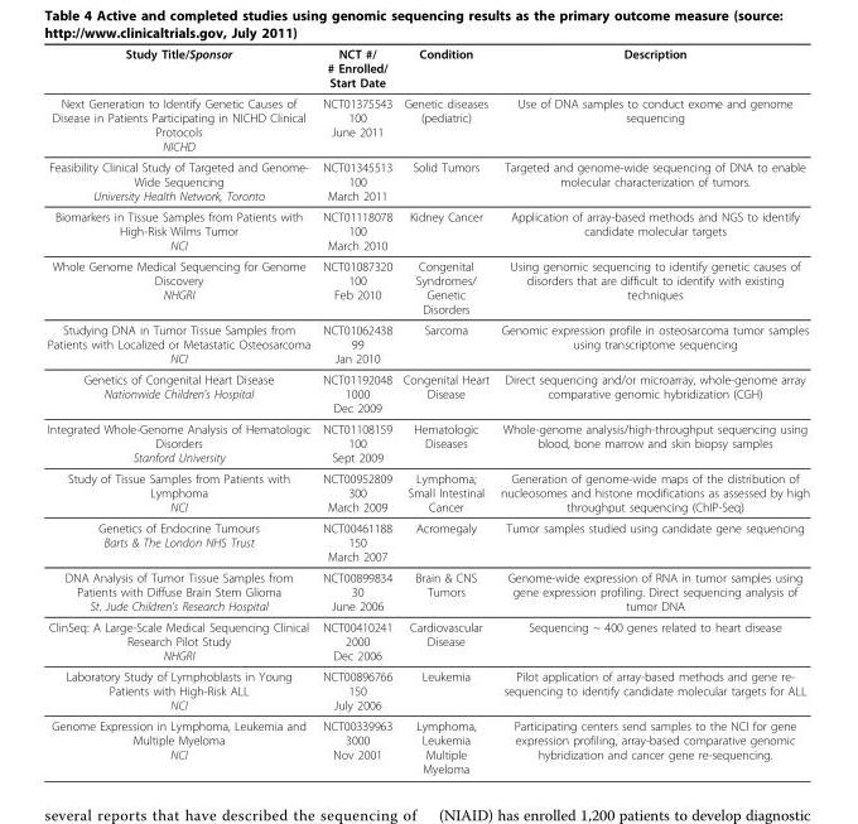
<table><thead><tr><td>Study Title/Sponsor</td><td>NCT #/ # Enrolled/ Start Date</td><td>Condition</td><td>Description</td></tr></thead><tbody><tr><td>Next Generation to Identify Genetic Causes of Disease in Patients Participating in NICHD Clinical Protocols NICHD</td><td>NCT01375543 100 June 2011</td><td>Genetic diseases (pediatric)</td><td>Use of DNA samples to conduct exome and genome sequencing</td></tr><tr><td>Feasibility Clinical Study of Targeted and Genome- Wide Sequencing University Health Network, Toronto</td><td>NCT01345513 100 March 2011</td><td>Solid Tumors</td><td>Targeted and genome-wide sequencing of DNA to enable molecular characterization of tumors.</td></tr><tr><td>Biomarkers in Tissue Samples from Patients with High-Risk Wilms Tumor NCI</td><td>NCT01118078 100 March 2010</td><td>Kidney Cancer</td><td>Application of array-based methods and NGS to identify candidate molecular targets</td></tr><tr><td>Whole Genome Medical Sequencing for Genome Discovery NHGRI</td><td>NCT01087320 100 Feb 2010</td><td>Congenital Syndromes/ Genetic Disorders</td><td>Using genomic sequencing to identify genetic causes of disorders that are difficult to identify with existing techniques</td></tr><tr><td>Studying DNA in Tumor Tissue Samples from Patients with Localized or Metastatic Osteosarcoma NCI</td><td>NCT01062438 99 Jan 2010</td><td>Sarcoma</td><td>Genomic expression profile in osteosarcoma tumor samples using transcriptome sequencing</td></tr><tr><td>Genetics of Congenital Heart Disease Nationwide Children’s Hospital</td><td>NCT01192048 1000 Dec 2009</td><td>Congenital Heart Disease</td><td>Direct sequencing and/or microarray, whole-genome array comparative genomic hybridization (CGH)</td></tr><tr><td>Integrated Whole-Genome Analysis of Hematologic Disorders Stanford University</td><td>NCT01108159 100 Sept 2009</td><td>Hematologic Diseases</td><td>Whole-genome analysis/high-throughput sequencing using blood, bone marrow and skin biopsy samples</td></tr><tr><td>Study of Tissue Samples from Patients with Lymphoma NCI</td><td>NCT00952809 300 March 2009</td><td>Lymphoma; Small Intestinal Cancer</td><td>Generation of genome-wide maps of the distribution of nucleosomes and histone modifications as assessed by high throughput sequencing (ChIP-Seq)</td></tr><tr><td>Genetics of Endocrine Tumours Barts &amp; The London NHS Trust</td><td>NCT00461188 150 March 2007</td><td>Acromegaly</td><td>Tumor samples studied using candidate gene sequencing</td></tr><tr><td>DNA Analysis of Tumor Tissue Samples from Patients with Diffuse Brain Stem Glioma St. Jude Children’s Research Hospital</td><td>NCT00899834 30 June 2006</td><td>Brain &amp; CNS Tumors</td><td>Genome-wide expression of RNA in tumor samples using gene expression profiling. Direct sequencing analysis of tumor DNA</td></tr><tr><td>ClinSeq: A Large-Scale Medical Sequencing Clinical Research Pilot Study NHGRI</td><td>NCT00410241 2000 Dec 2006</td><td>Cardiovascular Disease</td><td>Sequencing ~ 400 genes related to heart disease</td></tr><tr><td>Laboratory Study of Lymphoblasts in Young Patients with High-Risk ALL NCI</td><td>NCT00896766 150 July 2006</td><td>Leukemia</td><td>Pilot application of array-based methods and gene re- sequencing to identify candidate molecular targets for ALL</td></tr><tr><td>Genome Expression in Lymphoma, Leukemia and Multiple Myeloma NCI</td><td>NCT00339963 3000 Nov 2001</td><td>Lymphoma, Leukemia Multiple Myeloma</td><td>Participating centers send samples to the NCI for gene expression profiling, array-based comparative genomic hybridization and cancer gene re-sequencing.</td></tr></tbody></table>